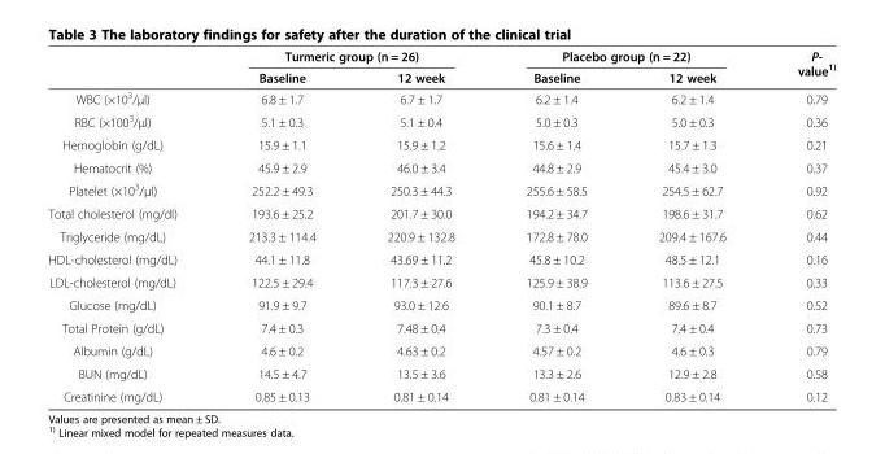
<table><thead><tr><td rowspan="2"></td><td colspan="2">Turmeric group (n = 26)</td><td colspan="2">Placebo group (n = 22)</td><td rowspan="2">P- value<sup>1)</sup></td></tr><tr><td>Baseline</td><td>12 week</td><td>Baseline</td><td>12 week</td></tr></thead><tbody><tr><td>WBC (×10<sup>3</sup>/μl)</td><td>6.8 ± 1.7</td><td>6.7 ± 1.7</td><td>6.2 ± 1.4</td><td>6.2 ± 1.4</td><td>0.79</td></tr><tr><td>RBC (×100<sup>3</sup>/μl)</td><td>5.1 ± 0.3</td><td>5.1 ± 0.4</td><td>5.0 ± 0.3</td><td>5.0 ± 0.3</td><td>0.36</td></tr><tr><td>Hemoglobin (g/dL)</td><td>15.9 ± 1.1</td><td>15.9 ± 1.2</td><td>15.6 ± 1.4</td><td>15.7 ± 1.3</td><td>0.21</td></tr><tr><td>Hematocrit (%)</td><td>45.9 ± 2.9</td><td>46.0 ± 3.4</td><td>44.8 ± 2.9</td><td>45.4 ± 3.0</td><td>0.37</td></tr><tr><td>Platelet (×10<sup>3</sup>/μl)</td><td>252.2 ± 49.3</td><td>250.3 ± 44.3</td><td>255.6 ± 58.5</td><td>254.5 ± 62.7</td><td>0.92</td></tr><tr><td>Total cholesterol (mg/dl)</td><td>193.6 ± 25.2</td><td>201.7 ± 30.0</td><td>194.2 ± 34.7</td><td>198.6 ± 31.7</td><td>0.62</td></tr><tr><td>Triglyceride (mg/dL)</td><td>213.3 ± 114.4</td><td>220.9 ± 132.8</td><td>172.8 ± 78.0</td><td>209.4 ± 167.6</td><td>0.44</td></tr><tr><td>HDL-cholesterol (mg/dL)</td><td>44.1 ± 11.8</td><td>43.69 ± 11.2</td><td>45.8 ± 10.2</td><td>48.5 ± 12.1</td><td>0.16</td></tr><tr><td>LDL-cholesterol (mg/dL)</td><td>122.5 ± 29.4</td><td>117.3 ± 27.6</td><td>125.9 ± 38.9</td><td>113.6 ± 27.5</td><td>0.33</td></tr><tr><td>Glucose (mg/dL)</td><td>91.9 ± 9.7</td><td>93.0 ± 12.6</td><td>90.1 ± 8.7</td><td>89.6 ± 8.7</td><td>0.52</td></tr><tr><td>Total Protein (g/dL)</td><td>7.4 ± 0.3</td><td>7.48 ± 0.4</td><td>7.3 ± 0.4</td><td>7.4 ± 0.4</td><td>0.73</td></tr><tr><td>Albumin (g/dL)</td><td>4.6 ± 0.2</td><td>4.63 ± 0.2</td><td>4.57 ± 0.2</td><td>4.6 ± 0.3</td><td>0.79</td></tr><tr><td>BUN (mg/dL)</td><td>14.5 ± 4.7</td><td>13.5 ± 3.6</td><td>13.3 ± 2.6</td><td>12.9 ± 2.8</td><td>0.58</td></tr><tr><td>Creatinine (mg/dL)</td><td>0.85 ± 0.13</td><td>0.81 ± 0.14</td><td>0.81 ± 0.14</td><td>0.83 ± 0.14</td><td>0.12</td></tr></tbody></table>